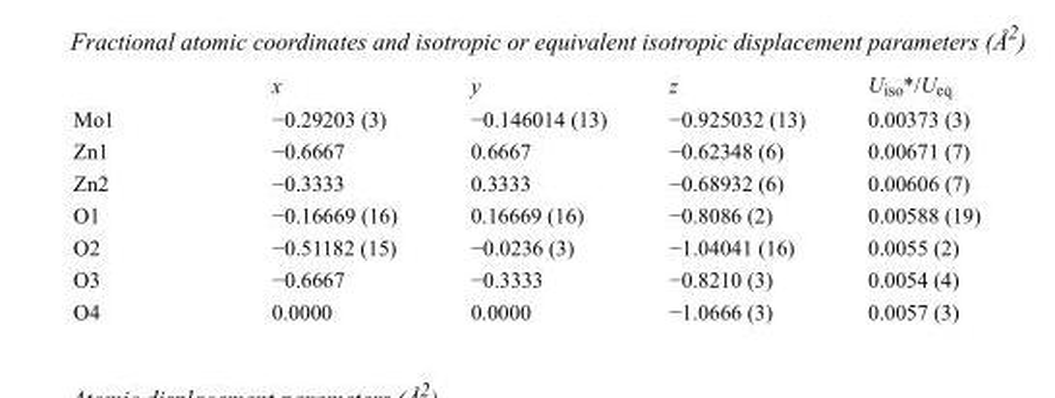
<table><thead><tr><td></td><td>x</td><td>y</td><td>z</td><td>U<sub>iso</sub>*/U<sub>eq</sub></td></tr></thead><tbody><tr><td>Mo1</td><td>−0.29203 (3)</td><td>−0.146014 (13)</td><td>−0.925032 (13)</td><td>0.00373 (3)</td></tr><tr><td>Zn1</td><td>−0.6667</td><td>0.6667</td><td>−0.62348 (6)</td><td>0.00671 (7)</td></tr><tr><td>Zn2</td><td>−0.3333</td><td>0.3333</td><td>−0.68932 (6)</td><td>0.00606 (7)</td></tr><tr><td>O1</td><td>−0.16669 (16)</td><td>0.16669 (16)</td><td>−0.8086 (2)</td><td>0.00588 (19)</td></tr><tr><td>O2</td><td>−0.51182 (15)</td><td>−0.0236 (3)</td><td>−1.04041 (16)</td><td>0.0055 (2)</td></tr><tr><td>O3</td><td>−0.6667</td><td>−0.3333</td><td>−0.8210 (3)</td><td>0.0054 (4)</td></tr><tr><td>O4</td><td>0.0000</td><td>0.0000</td><td>−1.0666 (3)</td><td>0.0057 (3)</td></tr></tbody></table>